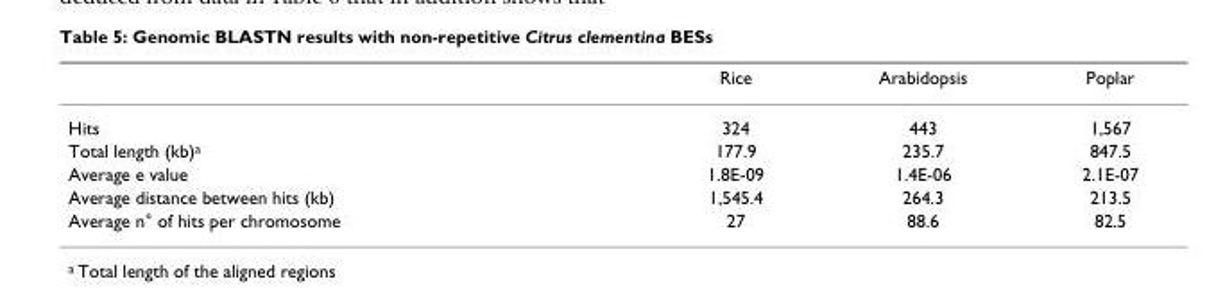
<table><thead><tr><td></td><td>Rice</td><td>Arabidopsis</td><td>Poplar</td></tr></thead><tbody><tr><td>Hits</td><td>324</td><td>443</td><td>1,567</td></tr><tr><td>Total length (kb)<sup>a</sup></td><td>177.9</td><td>235.7</td><td>847.5</td></tr><tr><td>Average e value</td><td>1.8E-09</td><td>1.4E-06</td><td>2.1E-07</td></tr><tr><td>Average distance between hits (kb)</td><td>1,545.4</td><td>264.3</td><td>213.5</td></tr><tr><td>Average n° of hits per chromosome</td><td>27</td><td>88.6</td><td>82.5</td></tr></tbody></table>